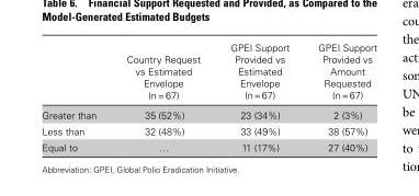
<table><thead><tr><td></td><td>Country Request vs Estimated Envelope (n = 67)</td><td>GPEI Support Provided vs Estimated Envelope (n = 67)</td><td>GPEI Support Provided vs Amount Requested (n = 67)</td></tr></thead><tbody><tr><td>Greater than</td><td>35 (52%)</td><td>23 (34%)</td><td>2 (3%)</td></tr><tr><td>Less than</td><td>32 (48%)</td><td>33 (49%)</td><td>38 (57%)</td></tr><tr><td>Equal to</td><td>…</td><td>11 (17%)</td><td>27 (40%)</td></tr></tbody></table>